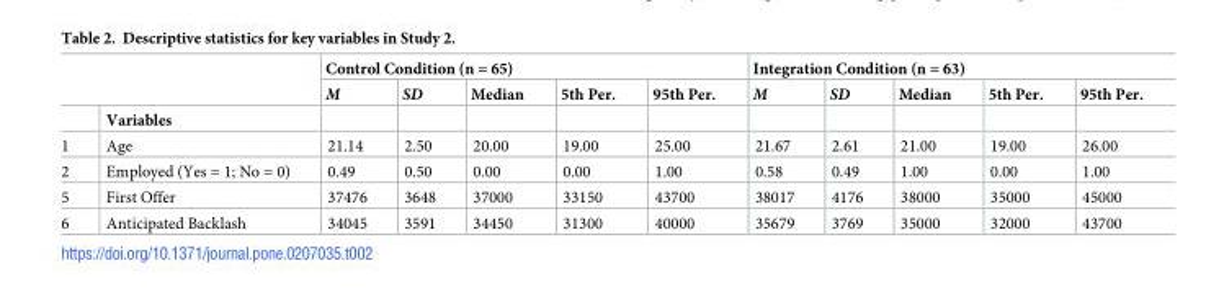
<table><thead><tr><td rowspan="2"></td><td rowspan="2"></td><td colspan="5">Control Condition (n = 65)</td><td colspan="5">Integration Condition (n = 63)</td></tr><tr><td>M</td><td>SD</td><td>Median</td><td>5th Per.</td><td>95th Per.</td><td>M</td><td>SD</td><td>Median</td><td>5th Per.</td><td>95th Per.</td></tr></thead><tbody><tr><td></td><td>Variables</td><td></td><td></td><td></td><td></td><td></td><td></td><td></td><td></td><td></td><td></td></tr><tr><td>1</td><td>Age</td><td>21.14</td><td>2.50</td><td>20.00</td><td>19.00</td><td>25.00</td><td>21.67</td><td>2.61</td><td>21.00</td><td>19.00</td><td>26.00</td></tr><tr><td>2</td><td>Employed (Yes = 1; No = 0)</td><td>0.49</td><td>0.50</td><td>0.00</td><td>0.00</td><td>1.00</td><td>0.58</td><td>0.49</td><td>1.00</td><td>0.00</td><td>1.00</td></tr><tr><td>5</td><td>First Offer</td><td>37476</td><td>3648</td><td>37000</td><td>33150</td><td>43700</td><td>38017</td><td>4176</td><td>38000</td><td>35000</td><td>45000</td></tr><tr><td>6</td><td>Anticipated Backlash</td><td>34045</td><td>3591</td><td>34450</td><td>31300</td><td>40000</td><td>35679</td><td>3769</td><td>35000</td><td>32000</td><td>43700</td></tr></tbody></table>